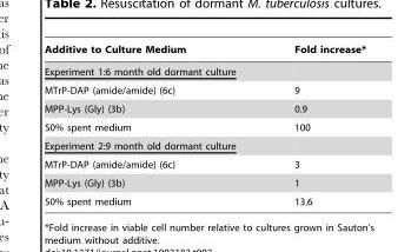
<table><thead><tr><td>Additive to Culture Medium</td><td>Fold increase*</td></tr></thead><tbody><tr><td colspan="2">Experiment 1:6 month old dormant culture</td></tr><tr><td>MTrP-DAP (amide/amide) (6c)</td><td>9</td></tr><tr><td>MPP-Lys (Gly) (3b)</td><td>0.9</td></tr><tr><td>50% spent medium</td><td>100</td></tr><tr><td colspan="2">Experiment 2:9 month old dormant culture</td></tr><tr><td>MTrP-DAP (amide/amide) (6c)</td><td>3</td></tr><tr><td>MPP-Lys (Gly) (3b)</td><td>1</td></tr><tr><td>50% spent medium</td><td>13.6</td></tr></tbody></table>